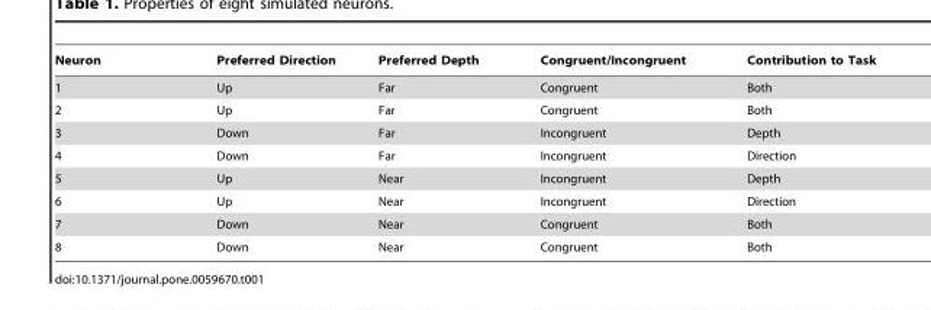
<table><thead><tr><td>Neuron</td><td>Preferred Direction</td><td>Preferred Depth</td><td>Congruent/Incongruent</td><td>Contribution to Task</td></tr></thead><tbody><tr><td>1</td><td>Up</td><td>Far</td><td>Congruent</td><td>Both</td></tr><tr><td>2</td><td>Up</td><td>Far</td><td>Congruent</td><td>Both</td></tr><tr><td>3</td><td>Down</td><td>Far</td><td>Incongruent</td><td>Depth</td></tr><tr><td>4</td><td>Down</td><td>Far</td><td>Incongruent</td><td>Direction</td></tr><tr><td>5</td><td>Up</td><td>Near</td><td>Incongruent</td><td>Depth</td></tr><tr><td>6</td><td>Up</td><td>Near</td><td>Incongruent</td><td>Direction</td></tr><tr><td>7</td><td>Down</td><td>Near</td><td>Congruent</td><td>Both</td></tr><tr><td>8</td><td>Down</td><td>Near</td><td>Congruent</td><td>Both</td></tr></tbody></table>